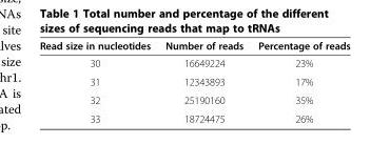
<table><thead><tr><td>Read size in nucleotides</td><td>Number of reads</td><td>Percentage of reads</td></tr></thead><tbody><tr><td>30</td><td>16649224</td><td>23%</td></tr><tr><td>31</td><td>12343893</td><td>17%</td></tr><tr><td>32</td><td>25190160</td><td>35%</td></tr><tr><td>33</td><td>18724475</td><td>26%</td></tr></tbody></table>